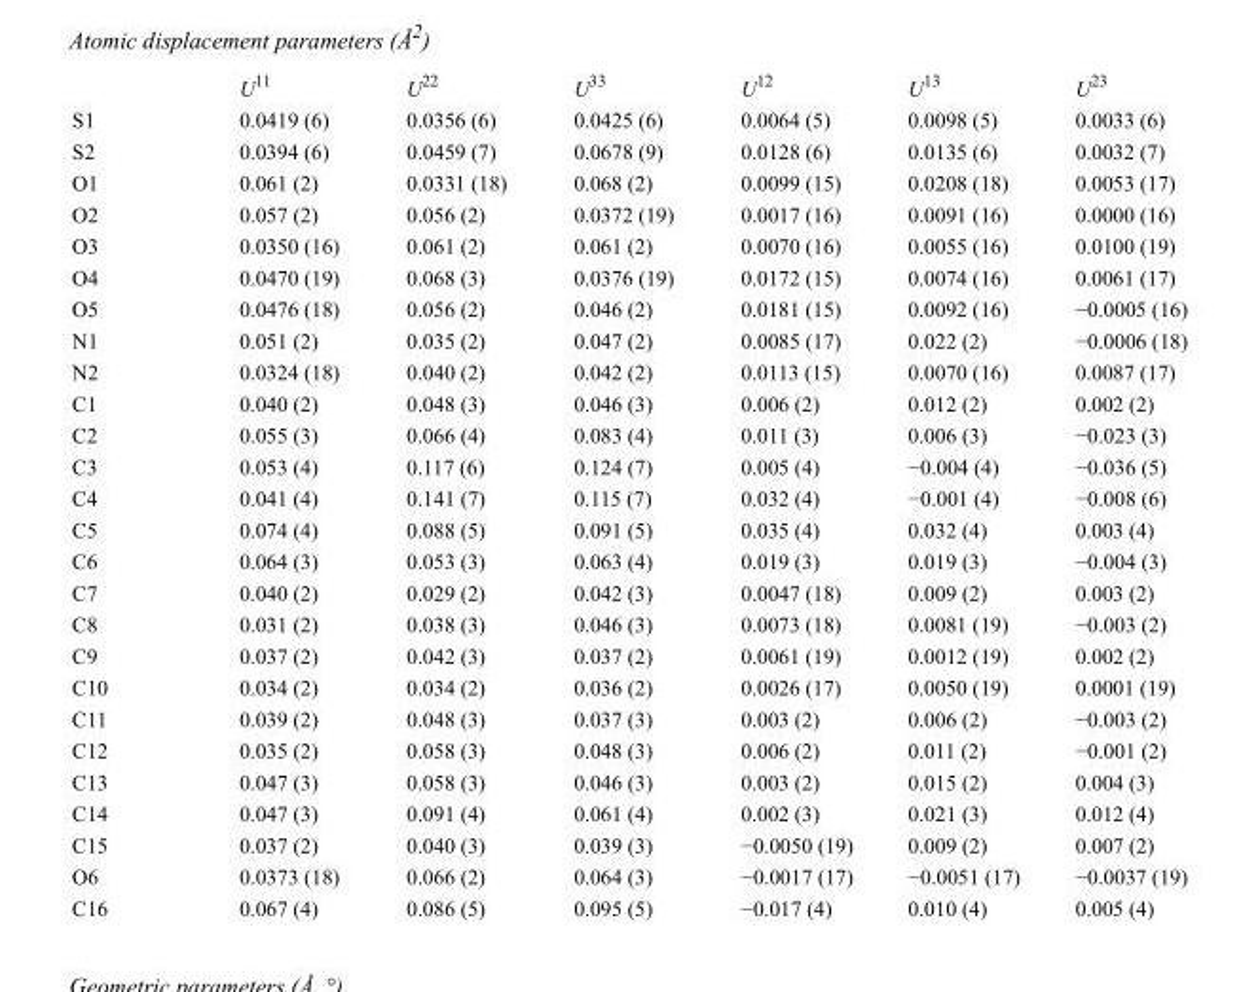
<table><thead><tr><td></td><td>U<sup>11</sup></td><td>U<sup>22</sup></td><td>U<sup>33</sup></td><td>U<sup>12</sup></td><td>U<sup>13</sup></td><td>U<sup>23</sup></td></tr></thead><tbody><tr><td>S1</td><td>0.0419 (6)</td><td>0.0356 (6)</td><td>0.0425 (6)</td><td>0.0064 (5)</td><td>0.0098 (5)</td><td>0.0033 (6)</td></tr><tr><td>S2</td><td>0.0394 (6)</td><td>0.0459 (7)</td><td>0.0678 (9)</td><td>0.0128 (6)</td><td>0.0135 (6)</td><td>0.0032 (7)</td></tr><tr><td>O1</td><td>0.061 (2)</td><td>0.0331 (18)</td><td>0.068 (2)</td><td>0.0099 (15)</td><td>0.0208 (18)</td><td>0.0053 (17)</td></tr><tr><td>O2</td><td>0.057 (2)</td><td>0.056 (2)</td><td>0.0372 (19)</td><td>0.0017 (16)</td><td>0.0091 (16)</td><td>0.0000 (16)</td></tr><tr><td>O3</td><td>0.0350 (16)</td><td>0.061 (2)</td><td>0.061 (2)</td><td>0.0070 (16)</td><td>0.0055 (16)</td><td>0.0100 (19)</td></tr><tr><td>O4</td><td>0.0470 (19)</td><td>0.068 (3)</td><td>0.0376 (19)</td><td>0.0172 (15)</td><td>0.0074 (16)</td><td>0.0061 (17)</td></tr><tr><td>O5</td><td>0.0476 (18)</td><td>0.056 (2)</td><td>0.046 (2)</td><td>0.0181 (15)</td><td>0.0092 (16)</td><td>−0.0005 (16)</td></tr><tr><td>N1</td><td>0.051 (2)</td><td>0.035 (2)</td><td>0.047 (2)</td><td>0.0085 (17)</td><td>0.022 (2)</td><td>−0.0006 (18)</td></tr><tr><td>N2</td><td>0.0324 (18)</td><td>0.040 (2)</td><td>0.042 (2)</td><td>0.0113 (15)</td><td>0.0070 (16)</td><td>0.0087 (17)</td></tr><tr><td>C1</td><td>0.040 (2)</td><td>0.048 (3)</td><td>0.046 (3)</td><td>0.006 (2)</td><td>0.012 (2)</td><td>0.002 (2)</td></tr><tr><td>C2</td><td>0.055 (3)</td><td>0.066 (4)</td><td>0.083 (4)</td><td>0.011 (3)</td><td>0.006 (3)</td><td>−0.023 (3)</td></tr><tr><td>C3</td><td>0.053 (4)</td><td>0.117 (6)</td><td>0.124 (7)</td><td>0.005 (4)</td><td>−0.004 (4)</td><td>−0.036 (5)</td></tr><tr><td>C4</td><td>0.041 (4)</td><td>0.141 (7)</td><td>0.115 (7)</td><td>0.032 (4)</td><td>−0.001 (4)</td><td>−0.008 (6)</td></tr><tr><td>C5</td><td>0.074 (4)</td><td>0.088 (5)</td><td>0.091 (5)</td><td>0.035 (4)</td><td>0.032 (4)</td><td>0.003 (4)</td></tr><tr><td>C6</td><td>0.064 (3)</td><td>0.053 (3)</td><td>0.063 (4)</td><td>0.019 (3)</td><td>0.019 (3)</td><td>−0.004 (3)</td></tr><tr><td>C7</td><td>0.040 (2)</td><td>0.029 (2)</td><td>0.042 (3)</td><td>0.0047 (18)</td><td>0.009 (2)</td><td>0.003 (2)</td></tr><tr><td>C8</td><td>0.031 (2)</td><td>0.038 (3)</td><td>0.046 (3)</td><td>0.0073 (18)</td><td>0.0081 (19)</td><td>−0.003 (2)</td></tr><tr><td>C9</td><td>0.037 (2)</td><td>0.042 (3)</td><td>0.037 (2)</td><td>0.0061 (19)</td><td>0.0012 (19)</td><td>0.002 (2)</td></tr><tr><td>C10</td><td>0.034 (2)</td><td>0.034 (2)</td><td>0.036 (2)</td><td>0.0026 (17)</td><td>0.0050 (19)</td><td>0.0001 (19)</td></tr><tr><td>C11</td><td>0.039 (2)</td><td>0.048 (3)</td><td>0.037 (3)</td><td>0.003 (2)</td><td>0.006 (2)</td><td>−0.003 (2)</td></tr><tr><td>C12</td><td>0.035 (2)</td><td>0.058 (3)</td><td>0.048 (3)</td><td>0.006 (2)</td><td>0.011 (2)</td><td>−0.001 (2)</td></tr><tr><td>C13</td><td>0.047 (3)</td><td>0.058 (3)</td><td>0.046 (3)</td><td>0.003 (2)</td><td>0.015 (2)</td><td>0.004 (3)</td></tr><tr><td>C14</td><td>0.047 (3)</td><td>0.091 (4)</td><td>0.061 (4)</td><td>0.002 (3)</td><td>0.021 (3)</td><td>0.012 (4)</td></tr><tr><td>C15</td><td>0.037 (2)</td><td>0.040 (3)</td><td>0.039 (3)</td><td>−0.0050 (19)</td><td>0.009 (2)</td><td>0.007 (2)</td></tr><tr><td>O6</td><td>0.0373 (18)</td><td>0.066 (2)</td><td>0.064 (3)</td><td>−0.0017 (17)</td><td>−0.0051 (17)</td><td>−0.0037 (19)</td></tr><tr><td>C16</td><td>0.067 (4)</td><td>0.086 (5)</td><td>0.095 (5)</td><td>−0.017 (4)</td><td>0.010 (4)</td><td>0.005 (4)</td></tr></tbody></table>